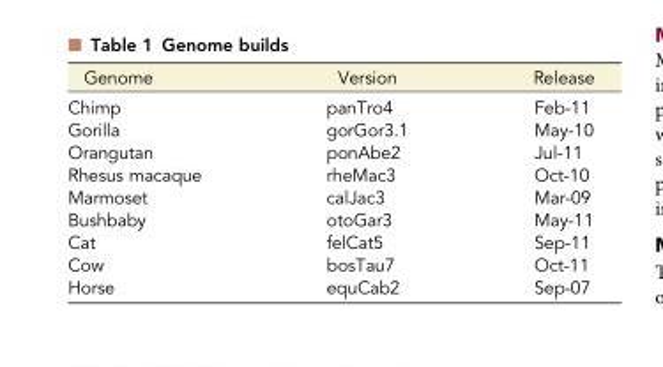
<table><thead><tr><td>Genome</td><td>Version</td><td>Release</td></tr></thead><tbody><tr><td>Chimp</td><td>panTro4</td><td>Feb-11</td></tr><tr><td>Gorilla</td><td>gorGor3.1</td><td>May-10</td></tr><tr><td>Orangutan</td><td>ponAbe2</td><td>Jul-11</td></tr><tr><td>Rhesus macaque</td><td>rheMac3</td><td>Oct-10</td></tr><tr><td>Marmoset</td><td>calJac3</td><td>Mar-09</td></tr><tr><td>Bushbaby</td><td>otoGar3</td><td>May-11</td></tr><tr><td>Cat</td><td>felCat5</td><td>Sep-11</td></tr><tr><td>Cow</td><td>bosTau7</td><td>Oct-11</td></tr><tr><td>Horse</td><td>equCab2</td><td>Sep-07</td></tr></tbody></table>